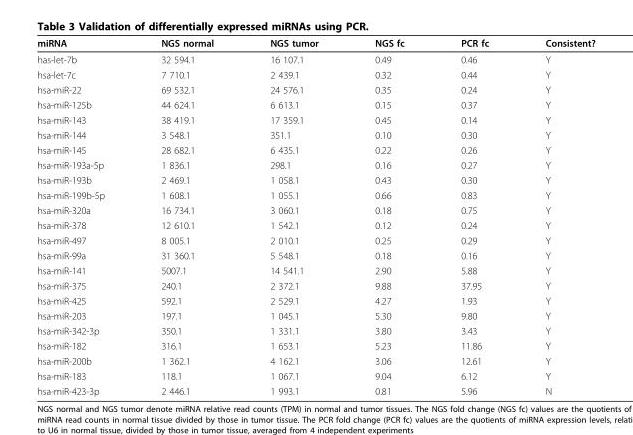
<table><thead><tr><td>miRNA</td><td>NGS normal</td><td>NGS tumor</td><td>NGS fc</td><td>PCR fc</td><td>Consistent?</td></tr></thead><tbody><tr><td>has-let-7b</td><td>32 594.1</td><td>16 107.1</td><td>0.49</td><td>0.46</td><td>Y</td></tr><tr><td>hsa-let-7c</td><td>7 710.1</td><td>2 439.1</td><td>0.32</td><td>0.44</td><td>Y</td></tr><tr><td>hsa-miR-22</td><td>69 532.1</td><td>24 576.1</td><td>0.35</td><td>0.24</td><td>Y</td></tr><tr><td>hsa-miR-125b</td><td>44 624.1</td><td>6 613.1</td><td>0.15</td><td>0.37</td><td>Y</td></tr><tr><td>hsa-miR-143</td><td>38 419.1</td><td>17 359.1</td><td>0.45</td><td>0.14</td><td>Y</td></tr><tr><td>hsa-miR-144</td><td>3 548.1</td><td>351.1</td><td>0.10</td><td>0.30</td><td>Y</td></tr><tr><td>hsa-miR-145</td><td>28 682.1</td><td>6 435.1</td><td>0.22</td><td>0.26</td><td>Y</td></tr><tr><td>hsa-miR-193a-5p</td><td>1 836.1</td><td>298.1</td><td>0.16</td><td>0.27</td><td>Y</td></tr><tr><td>hsa-miR-193b</td><td>2 469.1</td><td>1 058.1</td><td>0.43</td><td>0.30</td><td>Y</td></tr><tr><td>hsa-miR-199b-5p</td><td>1 608.1</td><td>1 055.1</td><td>0.66</td><td>0.83</td><td>Y</td></tr><tr><td>hsa-miR-320a</td><td>16 734.1</td><td>3 060.1</td><td>0.18</td><td>0.75</td><td>Y</td></tr><tr><td>hsa-miR-378</td><td>12 610.1</td><td>1 542.1</td><td>0.12</td><td>0.24</td><td>Y</td></tr><tr><td>hsa-miR-497</td><td>8 005.1</td><td>2 010.1</td><td>0.25</td><td>0.29</td><td>Y</td></tr><tr><td>hsa-miR-99a</td><td>31 360.1</td><td>5 548.1</td><td>0.18</td><td>0.16</td><td>Y</td></tr><tr><td>hsa-miR-141</td><td>5007.1</td><td>14 541.1</td><td>2.90</td><td>5.88</td><td>Y</td></tr><tr><td>hsa-miR-375</td><td>240.1</td><td>2 372.1</td><td>9.88</td><td>37.95</td><td>Y</td></tr><tr><td>hsa-miR-425</td><td>592.1</td><td>2 529.1</td><td>4.27</td><td>1.93</td><td>Y</td></tr><tr><td>hsa-miR-203</td><td>197.1</td><td>1 045.1</td><td>5.30</td><td>9.80</td><td>Y</td></tr><tr><td>hsa-miR-342-3p</td><td>350.1</td><td>1 331.1</td><td>3.80</td><td>3.43</td><td>Y</td></tr><tr><td>hsa-miR-182</td><td>316.1</td><td>1 653.1</td><td>5.23</td><td>11.86</td><td>Y</td></tr><tr><td>hsa-miR-200b</td><td>1 362.1</td><td>4 162.1</td><td>3.06</td><td>12.61</td><td>Y</td></tr><tr><td>hsa-miR-183</td><td>118.1</td><td>1 067.1</td><td>9.04</td><td>6.12</td><td>Y</td></tr><tr><td>hsa-miR-423-3p</td><td>2 446.1</td><td>1 993.1</td><td>0.81</td><td>5.96</td><td>N</td></tr></tbody></table>